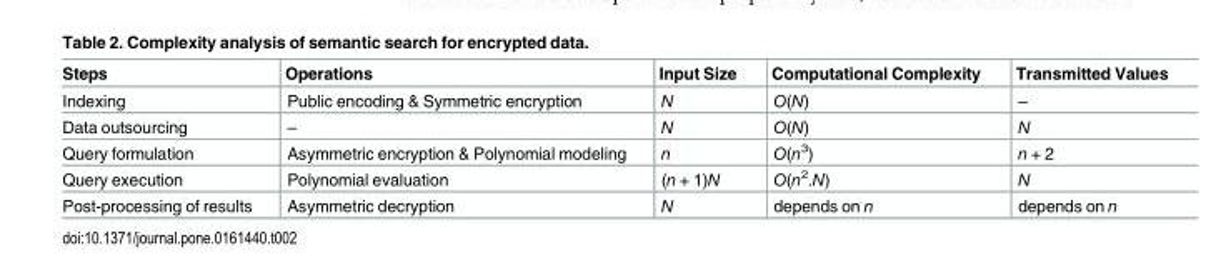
<table><thead><tr><td>Steps</td><td>Operations</td><td>Input Size</td><td>Computational Complexity</td><td>Transmitted Values</td></tr></thead><tbody><tr><td>Indexing</td><td>Public encoding &amp; Symmetric encryption</td><td>N</td><td>O(N)</td><td>–</td></tr><tr><td>Data outsourcing</td><td>–</td><td>N</td><td>O(N)</td><td>N</td></tr><tr><td>Query formulation</td><td>Asymmetric encryption &amp; Polynomial modeling</td><td>n</td><td>O(n<sup>3</sup>)</td><td>n + 2</td></tr><tr><td>Query execution</td><td>Polynomial evaluation</td><td>(n + 1)N</td><td>O(n<sup>2</sup>.N)</td><td>N</td></tr><tr><td>Post-processing of results</td><td>Asymmetric decryption</td><td>N</td><td>depends on n</td><td>depends on n</td></tr></tbody></table>